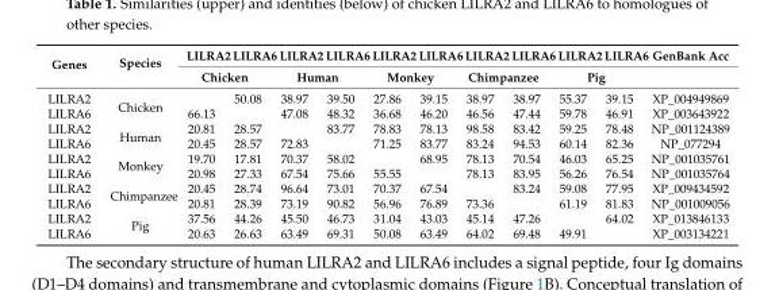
<table><thead><tr><td rowspan="2">Genes</td><td rowspan="2">Species</td><td>LILRA2</td><td>LILRA6</td><td>LILRA2</td><td>LILRA6</td><td>LILRA2</td><td>LILRA6</td><td>LILRA2</td><td>LILRA6</td><td>LILRA2</td><td>LILRA6</td><td rowspan="2">GenBank Acc</td></tr><tr><td colspan="2">Chicken</td><td colspan="2">Human</td><td colspan="2">Monkey</td><td colspan="2">Chimpanzee</td><td colspan="2">Pig</td></tr></thead><tbody><tr><td>LILRA2</td><td rowspan="2">Chicken</td><td></td><td>50.08</td><td>38.97</td><td>39.50</td><td>27.86</td><td>39.15</td><td>38.97</td><td>38.97</td><td>55.37</td><td>39.15</td><td>XP_004949869</td></tr><tr><td>LILRA6</td><td>66.13</td><td></td><td>47.08</td><td>48.32</td><td>36.68</td><td>46.20</td><td>46.56</td><td>47.44</td><td>59.78</td><td>46.91</td><td>XP_003643922</td></tr><tr><td>LILRA2</td><td rowspan="2">Human</td><td>20.81</td><td>28.57</td><td></td><td>83.77</td><td>78.83</td><td>78.13</td><td>98.58</td><td>83.42</td><td>59.25</td><td>78.48</td><td>NP_001124389</td></tr><tr><td>LILRA6</td><td>20.45</td><td>28.57</td><td>72.83</td><td></td><td>71.25</td><td>83.77</td><td>83.24</td><td>94.53</td><td>60.14</td><td>82.36</td><td>NP_077294</td></tr><tr><td>LILRA2</td><td rowspan="2">Monkey</td><td>19.70</td><td>17.81</td><td>70.37</td><td>58.02</td><td></td><td>68.95</td><td>78.13</td><td>70.54</td><td>46.03</td><td>65.25</td><td>NP_001035761</td></tr><tr><td>LILRA6</td><td>20.98</td><td>27.33</td><td>67.54</td><td>75.66</td><td>55.55</td><td></td><td>78.13</td><td>83.95</td><td>56.26</td><td>76.54</td><td>NP_001035764</td></tr><tr><td>LILRA2</td><td rowspan="2">Chimpanzee</td><td>20.45</td><td>28.74</td><td>96.64</td><td>73.01</td><td>70.37</td><td>67.54</td><td></td><td>83.24</td><td>59.08</td><td>77.95</td><td>XP_009434592</td></tr><tr><td>LILRA6</td><td>20.81</td><td>28.39</td><td>73.19</td><td>90.82</td><td>56.96</td><td>76.89</td><td>73.36</td><td></td><td>61.19</td><td>81.83</td><td>NP_001009056</td></tr><tr><td>LILRA2</td><td rowspan="2">Pig</td><td>37.56</td><td>44.26</td><td>45.50</td><td>46.73</td><td>31.04</td><td>43.03</td><td>45.14</td><td>47.26</td><td></td><td>64.02</td><td>XP_013846133</td></tr><tr><td>LILRA6</td><td>20.63</td><td>26.63</td><td>63.49</td><td>69.31</td><td>50.08</td><td>63.49</td><td>64.02</td><td>69.48</td><td>49.91</td><td></td><td>XP_003134221</td></tr></tbody></table>